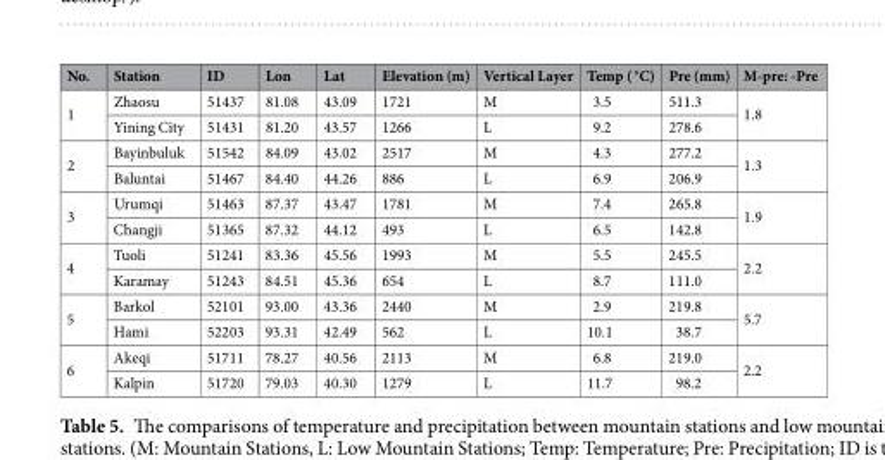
<table><thead><tr><td>No.</td><td>Station</td><td>ID</td><td>Lon</td><td>Lat</td><td>Elevation (m)</td><td>Vertical Layer</td><td>Temp ( °C)</td><td>Pre (mm)</td><td>M-pre: -Pre</td></tr></thead><tbody><tr><td rowspan="2">1</td><td>Zhaosu</td><td>51437</td><td>81.08</td><td>43.09</td><td>1721</td><td>M</td><td>3.5</td><td>511.3</td><td rowspan="2">1.8</td></tr><tr><td>Yining City</td><td>51431</td><td>81.20</td><td>43.57</td><td>1266</td><td>L</td><td>9.2</td><td>278.6</td></tr><tr><td rowspan="2">2</td><td>Bayinbuluk</td><td>51542</td><td>84.09</td><td>43.02</td><td>2517</td><td>M</td><td>4.3</td><td>277.2</td><td rowspan="2">1.3</td></tr><tr><td>Baluntai</td><td>51467</td><td>84.40</td><td>44.26</td><td>886</td><td>L</td><td>6.9</td><td>206.9</td></tr><tr><td rowspan="2">3</td><td>Urumqi</td><td>51463</td><td>87.37</td><td>43.47</td><td>1781</td><td>M</td><td>7.4</td><td>265.8</td><td rowspan="2">1.9</td></tr><tr><td>Changji</td><td>51365</td><td>87.32</td><td>44.12</td><td>493</td><td>L</td><td>6.5</td><td>142.8</td></tr><tr><td rowspan="2">4</td><td>Tuoli</td><td>51241</td><td>83.36</td><td>45.56</td><td>1993</td><td>M</td><td>5.5</td><td>245.5</td><td rowspan="2">2.2</td></tr><tr><td>Karamay</td><td>51243</td><td>84.51</td><td>45.36</td><td>654</td><td>L</td><td>8.7</td><td>111.0</td></tr><tr><td rowspan="2">5</td><td>Barkol</td><td>52101</td><td>93.00</td><td>43.36</td><td>2440</td><td>M</td><td>2.9</td><td>219.8</td><td rowspan="2">5.7</td></tr><tr><td>Hami</td><td>52203</td><td>93.31</td><td>42.49</td><td>562</td><td>L</td><td>10.1</td><td>38.7</td></tr><tr><td rowspan="2">6</td><td>Akeqi</td><td>51711</td><td>78.27</td><td>40.56</td><td>2113</td><td>M</td><td>6.8</td><td>219.0</td><td rowspan="2">2.2</td></tr><tr><td>Kalpin</td><td>51720</td><td>79.03</td><td>40.30</td><td>1279</td><td>L</td><td>11.7</td><td>98.2</td></tr></tbody></table>